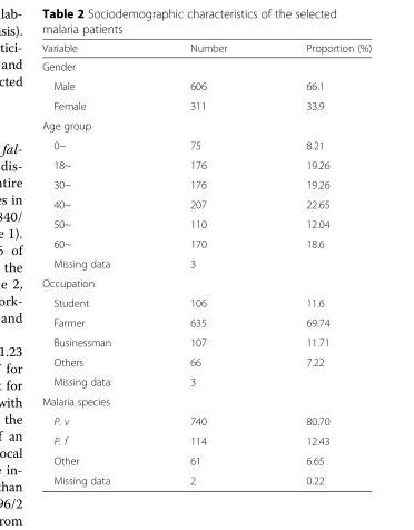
<table><thead><tr><td>Variable</td><td>Number</td><td>Proportion (%)</td></tr></thead><tbody><tr><td colspan="3">Gender</td></tr><tr><td>Male</td><td>606</td><td>66.1</td></tr><tr><td>Female</td><td>311</td><td>33.9</td></tr><tr><td colspan="3">Age group</td></tr><tr><td>0~</td><td>75</td><td>8.21</td></tr><tr><td>18~</td><td>176</td><td>19.26</td></tr><tr><td>30~</td><td>176</td><td>19.26</td></tr><tr><td>40~</td><td>207</td><td>22.65</td></tr><tr><td>50~</td><td>110</td><td>12.04</td></tr><tr><td>60~</td><td>170</td><td>18.6</td></tr><tr><td>Missing data</td><td>3</td><td></td></tr><tr><td colspan="3">Occupation</td></tr><tr><td>Student</td><td>106</td><td>11.6</td></tr><tr><td>Farmer</td><td>635</td><td>69.74</td></tr><tr><td>Businessman</td><td>107</td><td>11.71</td></tr><tr><td>Others</td><td>66</td><td>7.22</td></tr><tr><td>Missing data</td><td>3</td><td></td></tr><tr><td colspan="3">Malaria species</td></tr><tr><td>P. v</td><td>740</td><td>80.70</td></tr><tr><td>P. f</td><td>114</td><td>12.43</td></tr><tr><td>Other</td><td>61</td><td>6.65</td></tr><tr><td>Missing data</td><td>2</td><td>0.22</td></tr></tbody></table>